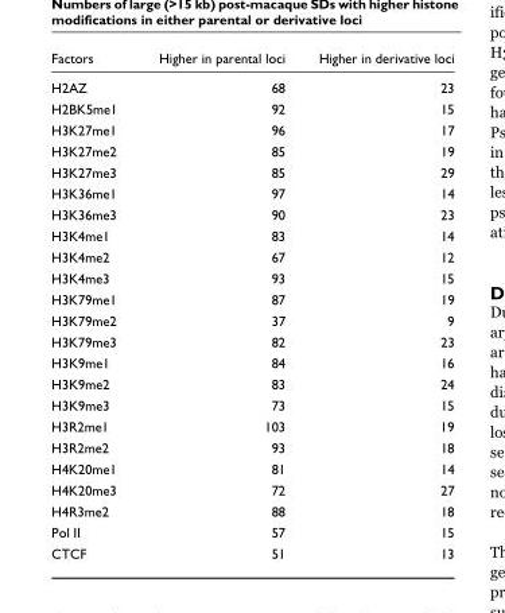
<table><thead><tr><td>Factors</td><td>Higher in parental loci</td><td>Higher in derivative loci</td></tr></thead><tbody><tr><td>H2AZ</td><td>68</td><td>23</td></tr><tr><td>H2BK5me1</td><td>92</td><td>15</td></tr><tr><td>H3K27me1</td><td>96</td><td>17</td></tr><tr><td>H3K27me2</td><td>85</td><td>19</td></tr><tr><td>H3K27me3</td><td>85</td><td>29</td></tr><tr><td>H3K36me1</td><td>97</td><td>14</td></tr><tr><td>H3K36me3</td><td>90</td><td>23</td></tr><tr><td>H3K4me1</td><td>83</td><td>14</td></tr><tr><td>H3K4me2</td><td>67</td><td>12</td></tr><tr><td>H3K4me3</td><td>93</td><td>15</td></tr><tr><td>H3K79me1</td><td>87</td><td>19</td></tr><tr><td>H3K79me2</td><td>37</td><td>9</td></tr><tr><td>H3K79me3</td><td>82</td><td>23</td></tr><tr><td>H3K9me1</td><td>84</td><td>16</td></tr><tr><td>H3K9me2</td><td>83</td><td>24</td></tr><tr><td>H3K9me3</td><td>73</td><td>15</td></tr><tr><td>H3R2me1</td><td>103</td><td>19</td></tr><tr><td>H3R2me2</td><td>93</td><td>18</td></tr><tr><td>H4K20me1</td><td>81</td><td>14</td></tr><tr><td>H4K20me3</td><td>72</td><td>27</td></tr><tr><td>H4R3me2</td><td>88</td><td>18</td></tr><tr><td>Pol II</td><td>57</td><td>15</td></tr><tr><td>CTCF</td><td>51</td><td>13</td></tr></tbody></table>